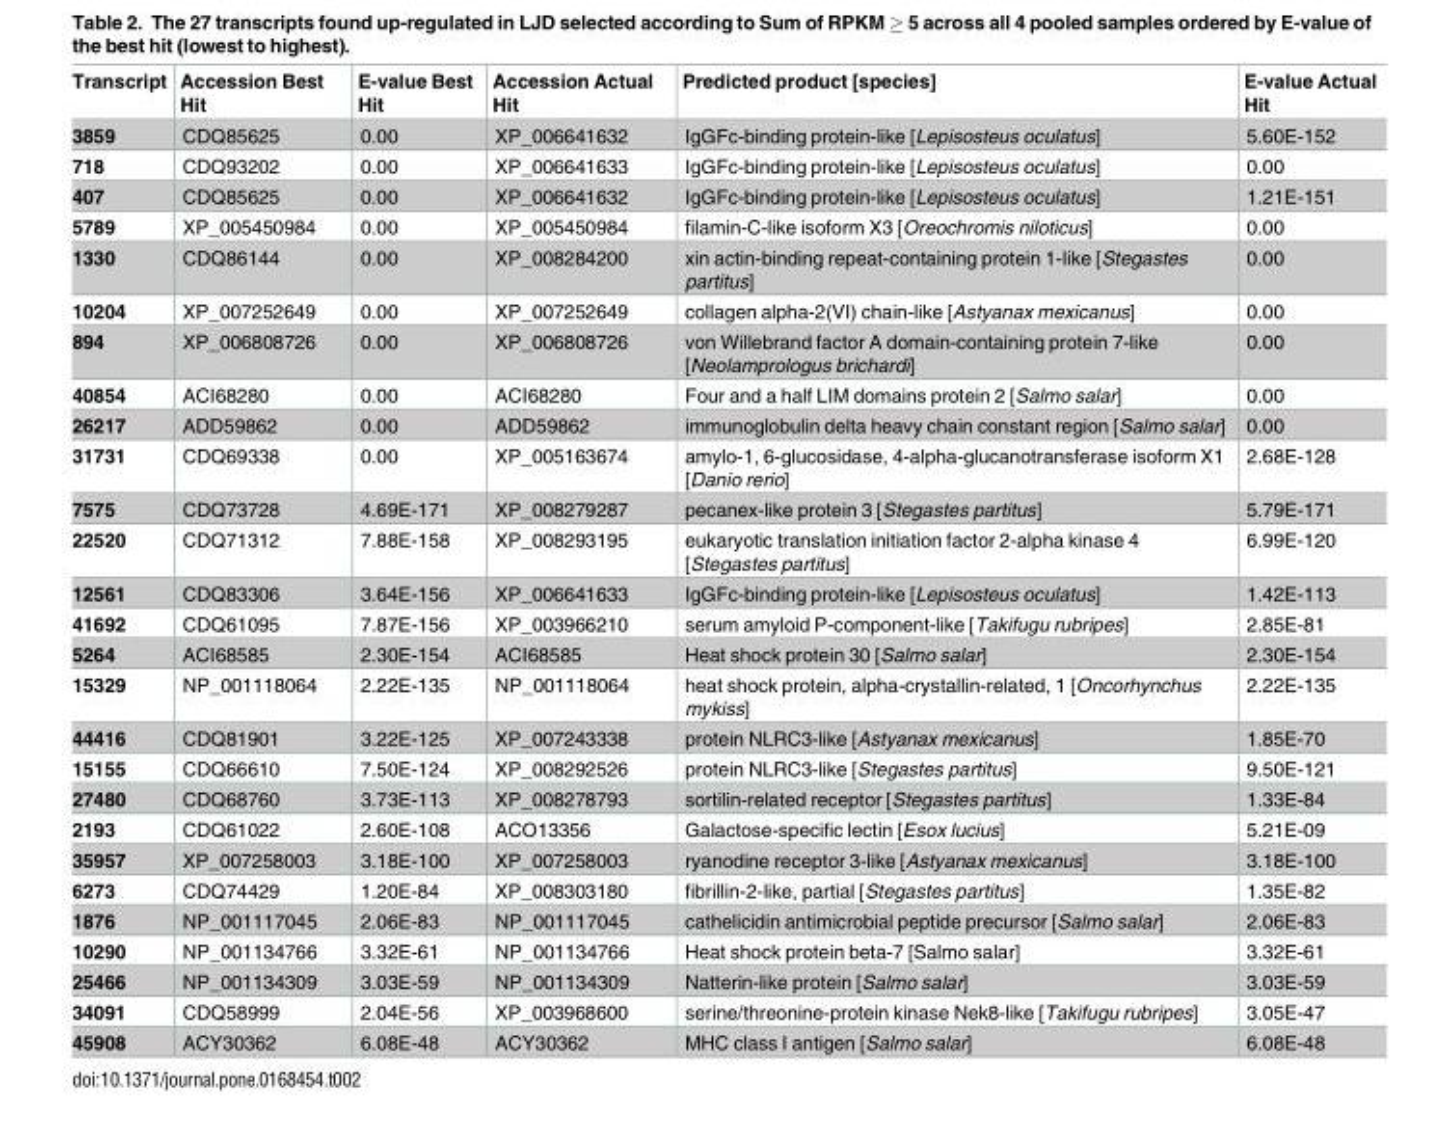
<table><thead><tr><td>Transcript</td><td>Accession Best Hit</td><td>E-value Best Hit</td><td>Accession Actual Hit</td><td>Predicted product [species]</td><td>E-value Actual Hit</td></tr></thead><tbody><tr><td>3859</td><td>CDQ85625</td><td>0.00</td><td>XP_006641632</td><td>IgGFc-binding protein-like [Lepisosteus oculatus]</td><td>5.60E-152</td></tr><tr><td>718</td><td>CDQ93202</td><td>0.00</td><td>XP_006641633</td><td>IgGFc-binding protein-like [Lepisosteus oculatus]</td><td>0.00</td></tr><tr><td>407</td><td>CDQ85625</td><td>0.00</td><td>XP_006641632</td><td>IgGFc-binding protein-like [Lepisosteus oculatus]</td><td>1.21E-151</td></tr><tr><td>5789</td><td>XP_005450984</td><td>0.00</td><td>XP_005450984</td><td>filamin-C-like isoform X3 [Oreochromis niloticus]</td><td>0.00</td></tr><tr><td>1330</td><td>CDQ86144</td><td>0.00</td><td>XP_008284200</td><td>xin actin-binding repeat-containing protein 1-like [Stegastes partitus]</td><td>0.00</td></tr><tr><td>10204</td><td>XP_007252649</td><td>0.00</td><td>XP_007252649</td><td>collagen alpha-2(VI) chain-like [Astyanax mexicanus]</td><td>0.00</td></tr><tr><td>894</td><td>XP_006808726</td><td>0.00</td><td>XP_006808726</td><td>von Willebrand factor A domain-containing protein 7-like [Neolamprologus brichardi]</td><td>0.00</td></tr><tr><td>40854</td><td>ACI68280</td><td>0.00</td><td>ACI68280</td><td>Four and a half LIM domains protein 2 [Salmo salar]</td><td>0.00</td></tr><tr><td>26217</td><td>ADD59862</td><td>0.00</td><td>ADD59862</td><td>immunoglobulin delta heavy chain constant region [Salmo salar]</td><td>0.00</td></tr><tr><td>31731</td><td>CDQ69338</td><td>0.00</td><td>XP_005163674</td><td>amylo-1, 6-glucosidase, 4-alpha-glucanotransferase isoform X1 [Danio rerio]</td><td>2.68E-128</td></tr><tr><td>7575</td><td>CDQ73728</td><td>4.69E-171</td><td>XP_008279287</td><td>pecanex-like protein 3 [Stegastes partitus]</td><td>5.79E-171</td></tr><tr><td>22520</td><td>CDQ71312</td><td>7.88E-158</td><td>XP_008293195</td><td>eukaryotic translation initiation factor 2-alpha kinase 4 [Stegastes partitus]</td><td>6.99E-120</td></tr><tr><td>12561</td><td>CDQ83306</td><td>3.64E-156</td><td>XP_006641633</td><td>IgGFc-binding protein-like [Lepisosteus oculatus]</td><td>1.42E-113</td></tr><tr><td>41692</td><td>CDQ61095</td><td>7.87E-156</td><td>XP_003966210</td><td>serum amyloid P-component-like [Takifugu rubripes]</td><td>2.85E-81</td></tr><tr><td>5264</td><td>ACI68585</td><td>2.30E-154</td><td>ACI68585</td><td>Heat shock protein 30 [Salmo salar]</td><td>2.30E-154</td></tr><tr><td>15329</td><td>NP_001118064</td><td>2.22E-135</td><td>NP_001118064</td><td>heat shock protein, alpha-crystallin-related, 1 [Oncorhynchus mykiss]</td><td>2.22E-135</td></tr><tr><td>44416</td><td>CDQ81901</td><td>3.22E-125</td><td>XP_007243338</td><td>protein NLRC3-like [Astyanax mexicanus]</td><td>1.85E-70</td></tr><tr><td>15155</td><td>CDQ66610</td><td>7.50E-124</td><td>XP_008292526</td><td>protein NLRC3-like [Stegastes partitus]</td><td>9.50E-121</td></tr><tr><td>27480</td><td>CDQ68760</td><td>3.73E-113</td><td>XP_008278793</td><td>sortilin-related receptor [Stegastes partitus]</td><td>1.33E-84</td></tr><tr><td>2193</td><td>CDQ61022</td><td>2.60E-108</td><td>ACO13356</td><td>Galactose-specific lectin [Esox lucius]</td><td>5.21E-09</td></tr><tr><td>35957</td><td>XP_007258003</td><td>3.18E-100</td><td>XP_007258003</td><td>ryanodine receptor 3-like [Astyanax mexicanus]</td><td>3.18E-100</td></tr><tr><td>6273</td><td>CDQ74429</td><td>1.20E-84</td><td>XP_008303180</td><td>fibrillin-2-like, partial [Stegastes partitus]</td><td>1.35E-82</td></tr><tr><td>1876</td><td>NP_001117045</td><td>2.06E-83</td><td>NP_001117045</td><td>cathelicidin antimicrobial peptide precursor [Salmo salar]</td><td>2.06E-83</td></tr><tr><td>10290</td><td>NP_001134766</td><td>3.32E-61</td><td>NP_001134766</td><td>Heat shock protein beta-7 [Salmo salar]</td><td>3.32E-61</td></tr><tr><td>25466</td><td>NP_001134309</td><td>3.03E-59</td><td>NP_001134309</td><td>Natterin-like protein [Salmo salar]</td><td>3.03E-59</td></tr><tr><td>34091</td><td>CDQ58999</td><td>2.04E-56</td><td>XP_003968600</td><td>serine/threonine-protein kinase Nek8-like [Takifugu rubripes]</td><td>3.05E-47</td></tr><tr><td>45908</td><td>ACY30362</td><td>6.08E-48</td><td>ACY30362</td><td>MHC class I antigen [Salmo salar]</td><td>6.08E-48</td></tr></tbody></table>